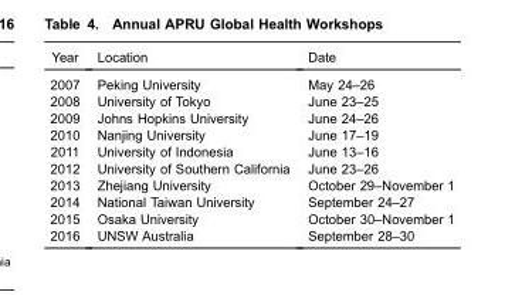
<table><thead><tr><td>Year</td><td>Location</td><td>Date</td></tr></thead><tbody><tr><td>2007</td><td>Peking University</td><td>May 24–26</td></tr><tr><td>2008</td><td>University of Tokyo</td><td>June 23–25</td></tr><tr><td>2009</td><td>Johns Hopkins University</td><td>June 24–26</td></tr><tr><td>2010</td><td>Nanjing University</td><td>June 17–19</td></tr><tr><td>2011</td><td>University of Indonesia</td><td>June 13–16</td></tr><tr><td>2012</td><td>University of Southern California</td><td>June 23–26</td></tr><tr><td>2013</td><td>Zhejiang University</td><td>October 29–November 1</td></tr><tr><td>2014</td><td>National Taiwan University</td><td>September 24–27</td></tr><tr><td>2015</td><td>Osaka University</td><td>October 30–November 1</td></tr><tr><td>2016</td><td>UNSW Australia</td><td>September 28–30</td></tr></tbody></table>